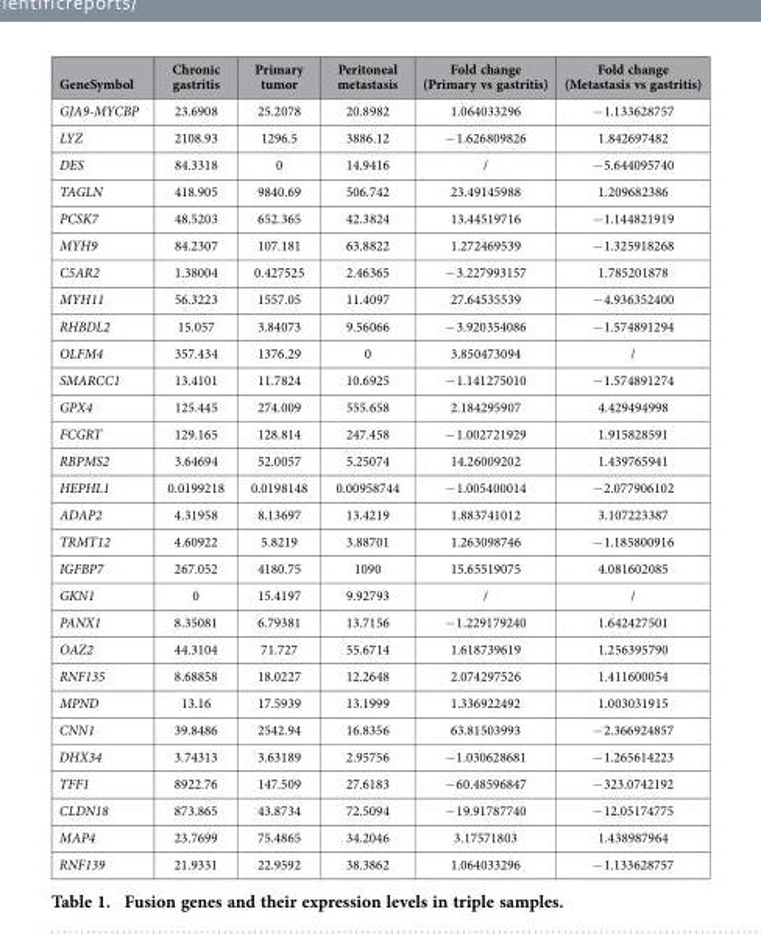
<table><thead><tr><td>GeneSymbol</td><td>Chronic gastritis</td><td>Primary tumor</td><td>Peritoneal metastasis</td><td>Fold change (Primary vs gastritis)</td><td>Fold change (Metastasis vs gastritis)</td></tr></thead><tbody><tr><td>GJA9-MYCBP</td><td>23.6908</td><td>25.2078</td><td>20.8982</td><td>1.064033296</td><td>− 1.133628757</td></tr><tr><td>LYZ</td><td>2108.93</td><td>1296.5</td><td>3886.12</td><td>− 1.626809826</td><td>1.842697482</td></tr><tr><td>DES</td><td>84.3318</td><td>0</td><td>14.9416</td><td>/</td><td>− 5.644095740</td></tr><tr><td>TAGLN</td><td>418.905</td><td>9840.69</td><td>506.742</td><td>23.49145988</td><td>1.209682386</td></tr><tr><td>PCSK7</td><td>48.5203</td><td>652.365</td><td>42.3824</td><td>13.44519716</td><td>− 1.144821919</td></tr><tr><td>MYH9</td><td>84.2307</td><td>107.181</td><td>63.8822</td><td>1.272469539</td><td>− 1.325918268</td></tr><tr><td>C5AR2</td><td>1.38004</td><td>0.427525</td><td>2.46365</td><td>− 3.227993157</td><td>1.785201878</td></tr><tr><td>MYH11</td><td>56.3223</td><td>1557.05</td><td>11.4097</td><td>27.64535539</td><td>− 4.936352400</td></tr><tr><td>RHBDL2</td><td>15.057</td><td>3.84073</td><td>9.56066</td><td>− 3.920354086</td><td>− 1.574891294</td></tr><tr><td>OLFM4</td><td>357.434</td><td>1376.29</td><td>0</td><td>3.850473094</td><td>/</td></tr><tr><td>SMARCC1</td><td>13.4101</td><td>11.7824</td><td>10.6925</td><td>− 1.141275010</td><td>− 1.574891274</td></tr><tr><td>GPX4</td><td>125.445</td><td>274.009</td><td>555.658</td><td>2.184295907</td><td>4.429494998</td></tr><tr><td>FCGRT</td><td>129.165</td><td>128.814</td><td>247.458</td><td>− 1.002721929</td><td>1.915828591</td></tr><tr><td>RBPMS2</td><td>3.64694</td><td>52.0057</td><td>5.25074</td><td>14.26009202</td><td>1.439765941</td></tr><tr><td>HEPHL1</td><td>0.0199218</td><td>0.0198148</td><td>0.00958744</td><td>− 1.005400014</td><td>− 2.077906102</td></tr><tr><td>ADAP2</td><td>4.31958</td><td>8.13697</td><td>13.4219</td><td>1.883741012</td><td>3.107223387</td></tr><tr><td>TRMT12</td><td>4.60922</td><td>5.8219</td><td>3.88701</td><td>1.263098746</td><td>− 1.185800916</td></tr><tr><td>IGFBP7</td><td>267.052</td><td>4180.75</td><td>1090</td><td>15.65519075</td><td>4.081602085</td></tr><tr><td>GKN1</td><td>0</td><td>15.4197</td><td>9.92793</td><td>/</td><td>/</td></tr><tr><td>PANX1</td><td>8.35081</td><td>6.79381</td><td>13.7156</td><td>− 1.229179240</td><td>1.642427501</td></tr><tr><td>OAZ2</td><td>44.3104</td><td>71.727</td><td>55.6714</td><td>1.618739619</td><td>1.256395790</td></tr><tr><td>RNF135</td><td>8.68858</td><td>18.0227</td><td>12.2648</td><td>2.074297526</td><td>1.411600054</td></tr><tr><td>MPND</td><td>13.16</td><td>17.5939</td><td>13.1999</td><td>1.336922492</td><td>1.003031915</td></tr><tr><td>CNN1</td><td>39.8486</td><td>2542.94</td><td>16.8356</td><td>63.81503993</td><td>− 2.366924857</td></tr><tr><td>DHX34</td><td>3.74313</td><td>3.63189</td><td>2.95756</td><td>− 1.030628681</td><td>− 1.265614223</td></tr><tr><td>TFF1</td><td>8922.76</td><td>147.509</td><td>27.6183</td><td>− 60.48596847</td><td>− 323.0742192</td></tr><tr><td>CLDN18</td><td>873.865</td><td>43.8734</td><td>72.5094</td><td>− 19.91787740</td><td>− 12.05174775</td></tr><tr><td>MAP4</td><td>23.7699</td><td>75.4865</td><td>34.2046</td><td>3.17571803</td><td>1.438987964</td></tr><tr><td>RNF139</td><td>21.9331</td><td>22.9592</td><td>38.3862</td><td>1.064033296</td><td>− 1.133628757</td></tr></tbody></table>